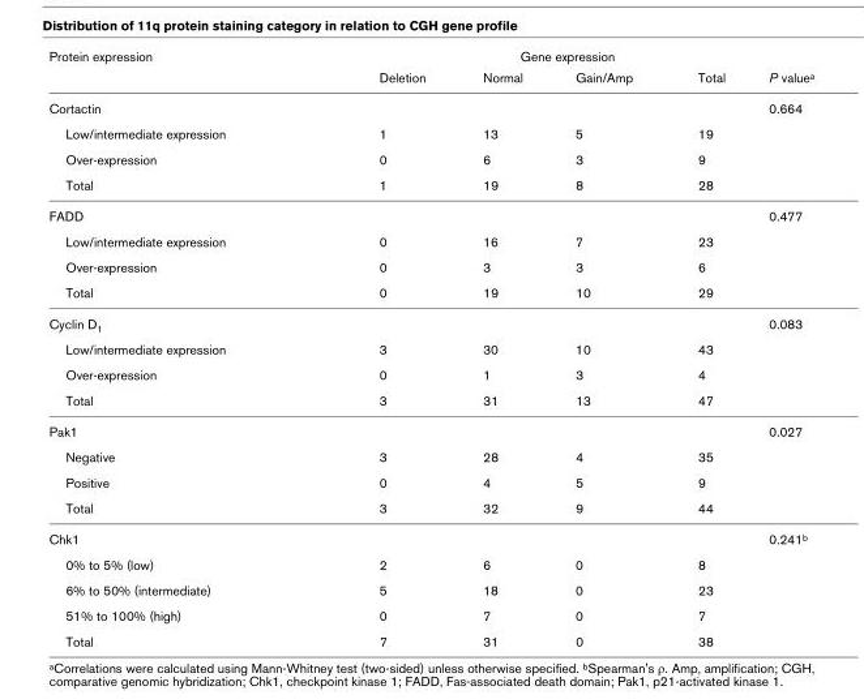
<table><thead><tr><td rowspan="2">Protein expression</td><td colspan="4">Gene expression</td><td rowspan="2">P value<sup>a</sup></td></tr><tr><td>Deletion</td><td>Normal</td><td>Gain/Amp</td><td>Total</td></tr></thead><tbody><tr><td>Cortactin</td><td></td><td></td><td></td><td></td><td>0.664</td></tr><tr><td>Low/intermediate expression</td><td>1</td><td>13</td><td>5</td><td>19</td><td></td></tr><tr><td>Over-expression</td><td>0</td><td>6</td><td>3</td><td>9</td><td></td></tr><tr><td>Total</td><td>1</td><td>19</td><td>8</td><td>28</td><td></td></tr><tr><td>FADD</td><td></td><td></td><td></td><td></td><td>0.477</td></tr><tr><td>Low/intermediate expression</td><td>0</td><td>16</td><td>7</td><td>23</td><td></td></tr><tr><td>Over-expression</td><td>0</td><td>3</td><td>3</td><td>6</td><td></td></tr><tr><td>Total</td><td>0</td><td>19</td><td>10</td><td>29</td><td></td></tr><tr><td>Cyclin D<sub>1</sub></td><td></td><td></td><td></td><td></td><td>0.083</td></tr><tr><td>Low/intermediate expression</td><td>3</td><td>30</td><td>10</td><td>43</td><td></td></tr><tr><td>Over-expression</td><td>0</td><td>1</td><td>3</td><td>4</td><td></td></tr><tr><td>Total</td><td>3</td><td>31</td><td>13</td><td>47</td><td></td></tr><tr><td>Pak1</td><td></td><td></td><td></td><td></td><td>0.027</td></tr><tr><td>Negative</td><td>3</td><td>28</td><td>4</td><td>35</td><td></td></tr><tr><td>Positive</td><td>0</td><td>4</td><td>5</td><td>9</td><td></td></tr><tr><td>Total</td><td>3</td><td>32</td><td>9</td><td>44</td><td></td></tr><tr><td>Chk1</td><td></td><td></td><td></td><td></td><td>0.241<sup>b</sup></td></tr><tr><td>0% to 5% (low)</td><td>2</td><td>6</td><td>0</td><td>8</td><td></td></tr><tr><td>6% to 50% (intermediate)</td><td>5</td><td>18</td><td>0</td><td>23</td><td></td></tr><tr><td>51% to 100% (high)</td><td>0</td><td>7</td><td>0</td><td>7</td><td></td></tr><tr><td>Total</td><td>7</td><td>31</td><td>0</td><td>38</td><td></td></tr></tbody></table>